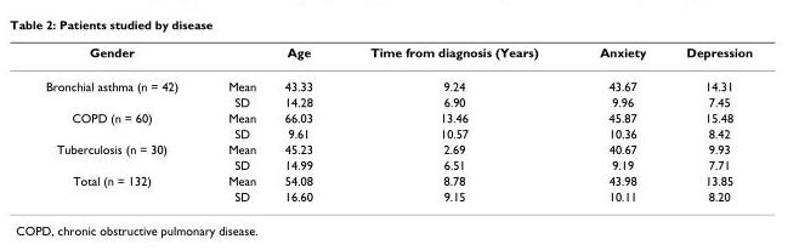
<table><thead><tr><td>Gender</td><td></td><td>Age</td><td>Time from diagnosis (Years)</td><td>Anxiety</td><td>Depression</td></tr></thead><tbody><tr><td rowspan="2">Bronchial asthma (n = 42)</td><td>Mean</td><td>43.33</td><td>9.24</td><td>43.67</td><td>14.31</td></tr><tr><td>SD</td><td>14.28</td><td>6.90</td><td>9.96</td><td>7.45</td></tr><tr><td rowspan="2">COPD (n = 60)</td><td>Mean</td><td>66.03</td><td>13.46</td><td>45.87</td><td>15.48</td></tr><tr><td>SD</td><td>9.61</td><td>10.57</td><td>10.36</td><td>8.42</td></tr><tr><td rowspan="2">Tuberculosis (n = 30)</td><td>Mean</td><td>45.23</td><td>2.69</td><td>40.67</td><td>9.93</td></tr><tr><td>SD</td><td>14.99</td><td>6.51</td><td>9.19</td><td>7.71</td></tr><tr><td rowspan="2">Total (n = 132)</td><td>Mean</td><td>54.08</td><td>8.78</td><td>43.98</td><td>13.85</td></tr><tr><td>SD</td><td>16.60</td><td>9.15</td><td>10.11</td><td>8.20</td></tr></tbody></table>